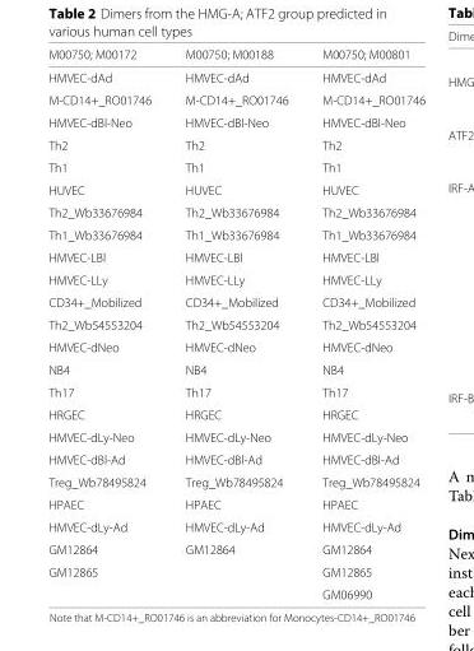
<table><thead><tr><td>M00750; M00172</td><td>M00750; M00188</td><td>M00750; M00801</td></tr></thead><tbody><tr><td>HMVEC-dAd</td><td>HMVEC-dAd</td><td>HMVEC-dAd</td></tr><tr><td>M-CD14+_RO01746</td><td>M-CD14+_RO01746</td><td>M-CD14+_RO01746</td></tr><tr><td>HMVEC-dBl-Neo</td><td>HMVEC-dBl-Neo</td><td>HMVEC-dBl-Neo</td></tr><tr><td>Th2</td><td>Th2</td><td>Th2</td></tr><tr><td>Th1</td><td>Th1</td><td>Th1</td></tr><tr><td>HUVEC</td><td>HUVEC</td><td>HUVEC</td></tr><tr><td>Th2_Wb33676984</td><td>Th2_Wb33676984</td><td>Th2_Wb33676984</td></tr><tr><td>Th1_Wb33676984</td><td>Th1_Wb33676984</td><td>Th1_Wb33676984</td></tr><tr><td>HMVEC-LBl</td><td>HMVEC-LBl</td><td>HMVEC-LBl</td></tr><tr><td>HMVEC-LLy</td><td>HMVEC-LLy</td><td>HMVEC-LLy</td></tr><tr><td>CD34+_Mobilized</td><td>CD34+_Mobilized</td><td>CD34+_Mobilized</td></tr><tr><td>Th2_Wb54553204</td><td>Th2_Wb54553204</td><td>Th2_Wb54553204</td></tr><tr><td>HMVEC-dNeo</td><td>HMVEC-dNeo</td><td>HMVEC-dNeo</td></tr><tr><td>NB4</td><td>NB4</td><td>NB4</td></tr><tr><td>Th17</td><td>Th17</td><td>Th17</td></tr><tr><td>HRGEC</td><td>HRGEC</td><td>HRGEC</td></tr><tr><td>HMVEC-dLy-Neo</td><td>HMVEC-dLy-Neo</td><td>HMVEC-dLy-Neo</td></tr><tr><td>HMVEC-dBl-Ad</td><td>HMVEC-dBl-Ad</td><td>HMVEC-dBl-Ad</td></tr><tr><td>Treg_Wb78495824</td><td>Treg_Wb78495824</td><td>Treg_Wb78495824</td></tr><tr><td>HPAEC</td><td>HPAEC</td><td>HPAEC</td></tr><tr><td>HMVEC-dLy-Ad</td><td>HMVEC-dLy-Ad</td><td>HMVEC-dLy-Ad</td></tr><tr><td>GM12864</td><td>GM12864</td><td>GM12864</td></tr><tr><td rowspan="2">GM12865</td><td></td><td>GM12865</td></tr><tr><td></td><td>GM06990</td></tr></tbody></table>